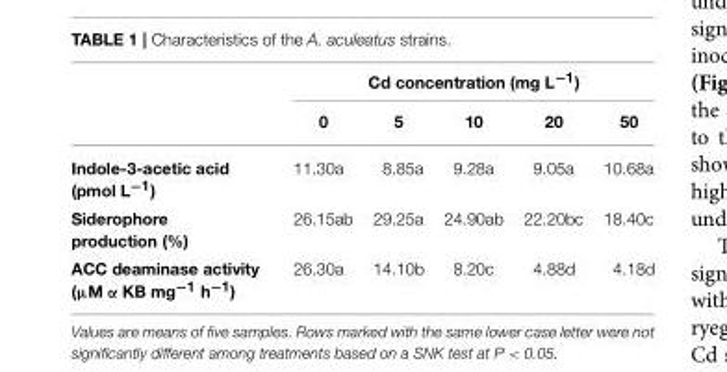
<table><thead><tr><td rowspan="2"></td><td colspan="5">Cd concentration (mg L<sup>−1</sup>)</td></tr><tr><td>0</td><td>5</td><td>10</td><td>20</td><td>50</td></tr></thead><tbody><tr><td>Indole-3-acetic acid (pmol L<sup>−1</sup>)</td><td>11.30a</td><td>8.85a</td><td>9.28a</td><td>9.05a</td><td>10.68a</td></tr><tr><td>Siderophore production (%)</td><td>26.15ab</td><td>29.25a</td><td>24.90ab</td><td>22.20bc</td><td>18.40c</td></tr><tr><td>ACC deaminase activity (µM α KB mg<sup>−1</sup> h<sup>−1</sup>)</td><td>26.30a</td><td>14.10b</td><td>8.20c</td><td>4.88d</td><td>4.18d</td></tr></tbody></table>